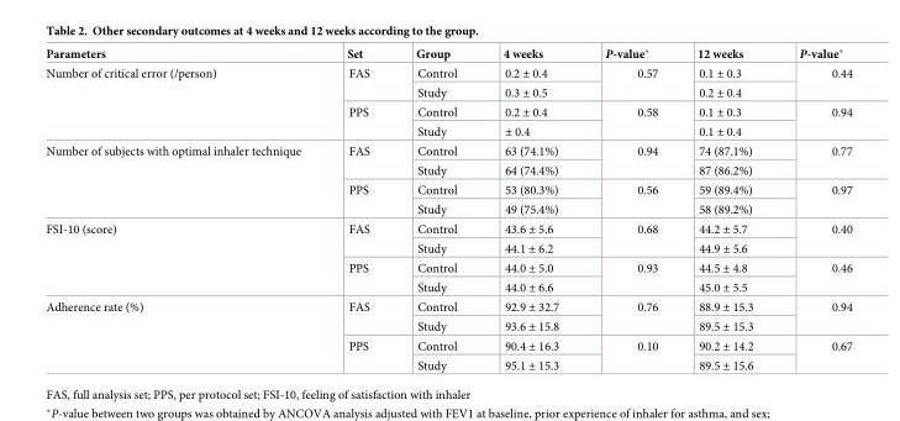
<table><thead><tr><td>Parameters</td><td>Set</td><td>Group</td><td>4 weeks</td><td>P-value*</td><td>12 weeks</td><td>P-value*</td></tr></thead><tbody><tr><td rowspan="4">Number of critical error (/person)</td><td rowspan="2">FAS</td><td>Control</td><td>0.2 ± 0.4</td><td rowspan="2">0.57</td><td>0.1 ± 0.3</td><td rowspan="2">0.44</td></tr><tr><td>Study</td><td>0.3 ± 0.5</td><td>0.2 ± 0.4</td></tr><tr><td rowspan="2">PPS</td><td>Control</td><td>0.2 ± 0.4</td><td rowspan="2">0.58</td><td>0.1 ± 0.3</td><td rowspan="2">0.94</td></tr><tr><td>Study</td><td>± 0.4</td><td>0.1 ± 0.4</td></tr><tr><td rowspan="4">Number of subjects with optimal inhaler technique</td><td rowspan="2">FAS</td><td>Control</td><td>63 (74.1%)</td><td rowspan="2">0.94</td><td>74 (87.1%)</td><td rowspan="2">0.77</td></tr><tr><td>Study</td><td>64 (74.4%)</td><td>87 (86.2%)</td></tr><tr><td rowspan="2">PPS</td><td>Control</td><td>53 (80.3%)</td><td rowspan="2">0.56</td><td>59 (89.4%)</td><td rowspan="2">0.97</td></tr><tr><td>Study</td><td>49 (75.4%)</td><td>58 (89.2%)</td></tr><tr><td rowspan="4">FSI-10 (score)</td><td rowspan="2">FAS</td><td>Control</td><td>43.6 ± 5.6</td><td rowspan="2">0.68</td><td>44.2 ± 5.7</td><td rowspan="2">0.40</td></tr><tr><td>Study</td><td>44.1 ± 6.2</td><td>44.9 ± 5.6</td></tr><tr><td rowspan="2">PPS</td><td>Control</td><td>44.0 ± 5.0</td><td rowspan="2">0.93</td><td>44.5 ± 4.8</td><td rowspan="2">0.46</td></tr><tr><td>Study</td><td>44.0 ± 6.6</td><td>45.0 ± 5.5</td></tr><tr><td rowspan="4">Adherence rate (%)</td><td rowspan="2">FAS</td><td>Control</td><td>92.9 ± 32.7</td><td rowspan="2">0.76</td><td>88.9 ± 15.3</td><td rowspan="2">0.94</td></tr><tr><td>Study</td><td>93.6 ± 15.8</td><td>89.5 ± 15.3</td></tr><tr><td rowspan="2">PPS</td><td>Control</td><td>90.4 ± 16.3</td><td rowspan="2">0.10</td><td>90.2 ± 14.2</td><td rowspan="2">0.67</td></tr><tr><td>Study</td><td>95.1 ± 15.3</td><td>89.5 ± 15.6</td></tr></tbody></table>